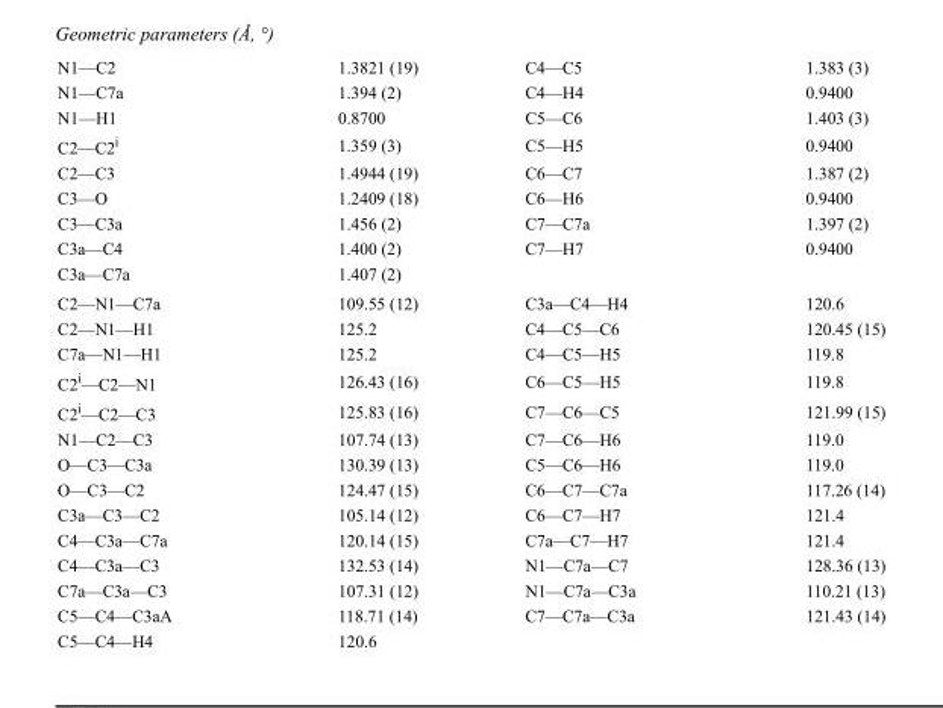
<table><tbody><tr><td>N1—C2</td><td>1.3821 (19)</td><td>C4—C5</td><td>1.383 (3)</td></tr><tr><td>N1—C7a</td><td>1.394 (2)</td><td>C4—H4</td><td>0.9400</td></tr><tr><td>N1—H1</td><td>0.8700</td><td>C5—C6</td><td>1.403 (3)</td></tr><tr><td>C2—C2<sup>i</sup></td><td>1.359 (3)</td><td>C5—H5</td><td>0.9400</td></tr><tr><td>C2—C3</td><td>1.4944 (19)</td><td>C6—C7</td><td>1.387 (2)</td></tr><tr><td>C3—O</td><td>1.2409 (18)</td><td>C6—H6</td><td>0.9400</td></tr><tr><td>C3—C3a</td><td>1.456 (2)</td><td>C7—C7a</td><td>1.397 (2)</td></tr><tr><td>C3a—C4</td><td>1.400 (2)</td><td>C7—H7</td><td>0.9400</td></tr><tr><td>C3a—C7a</td><td>1.407 (2)</td><td></td><td></td></tr><tr><td>C2—N1—C7a</td><td>109.55 (12)</td><td>C3a—C4—H4</td><td>120.6</td></tr><tr><td>C2—N1—H1</td><td>125.2</td><td>C4—C5—C6</td><td>120.45 (15)</td></tr><tr><td>C7a—N1—H1</td><td>125.2</td><td>C4—C5—H5</td><td>119.8</td></tr><tr><td>C2<sup>i</sup>—C2—N1</td><td>126.43 (16)</td><td>C6—C5—H5</td><td>119.8</td></tr><tr><td>C2<sup>i</sup>—C2—C3</td><td>125.83 (16)</td><td>C7—C6—C5</td><td>121.99 (15)</td></tr><tr><td>N1—C2—C3</td><td>107.74 (13)</td><td>C7—C6—H6</td><td>119.0</td></tr><tr><td>O—C3—C3a</td><td>130.39 (13)</td><td>C5—C6—H6</td><td>119.0</td></tr><tr><td>O—C3—C2</td><td>124.47 (15)</td><td>C6—C7—C7a</td><td>117.26 (14)</td></tr><tr><td>C3a—C3—C2</td><td>105.14 (12)</td><td>C6—C7—H7</td><td>121.4</td></tr><tr><td>C4—C3a—C7a</td><td>120.14 (15)</td><td>C7a—C7—H7</td><td>121.4</td></tr><tr><td>C4—C3a—C3</td><td>132.53 (14)</td><td>N1—C7a—C7</td><td>128.36 (13)</td></tr><tr><td>C7a—C3a—C3</td><td>107.31 (12)</td><td>N1—C7a—C3a</td><td>110.21 (13)</td></tr><tr><td>C5—C4—C3aA</td><td>118.71 (14)</td><td>C7—C7a—C3a</td><td>121.43 (14)</td></tr><tr><td>C5—C4—H4</td><td>120.6</td><td></td><td></td></tr></tbody></table>